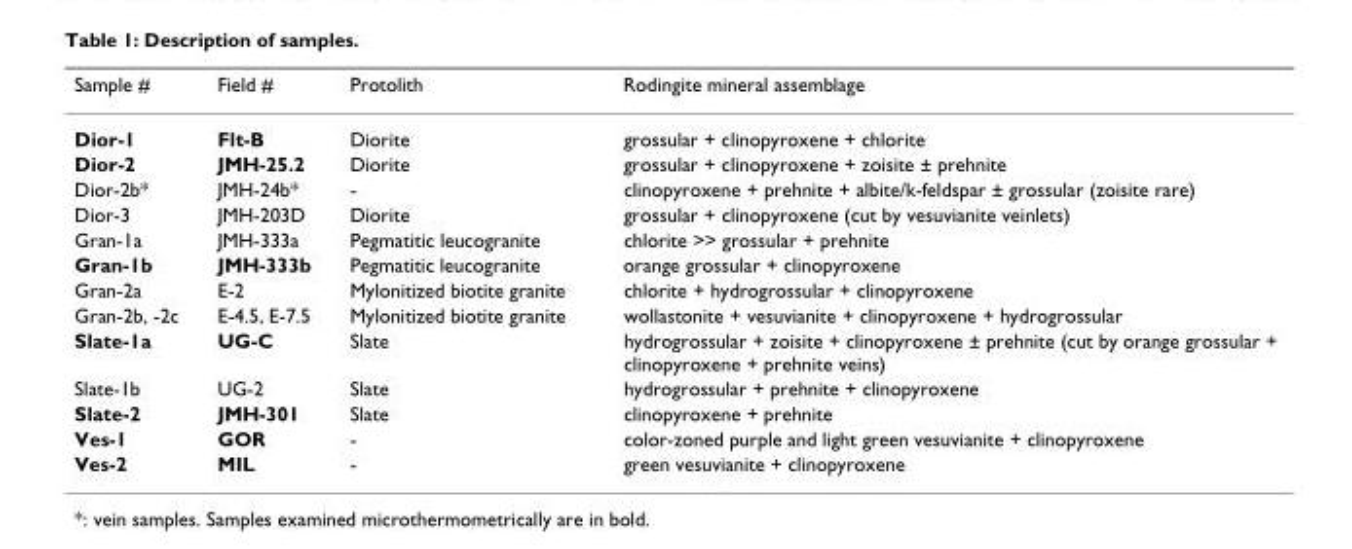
<table><thead><tr><td>Sample #</td><td>Field #</td><td>Protolith</td><td>Rodingite mineral assemblage</td></tr></thead><tbody><tr><td>Dior-1</td><td>Flt-B</td><td>Diorite</td><td>grossular + clinopyroxene + chlorite</td></tr><tr><td>Dior-2</td><td>JMH-25.2</td><td>Diorite</td><td>grossular + clinopyroxene + zoisite ± prehnite</td></tr><tr><td>Dior-2b*</td><td>JMH-24b*</td><td>-</td><td>clinopyroxene + prehnite + albite/k-feldspar ± grossular (zoisite rare)</td></tr><tr><td>Dior-3</td><td>JMH-203D</td><td>Diorite</td><td>grossular + clinopyroxene (cut by vesuvianite veinlets)</td></tr><tr><td>Gran-1a</td><td>JMH-333a</td><td>Pegmatitic leucogranite</td><td>chlorite &gt;&gt; grossular + prehnite</td></tr><tr><td>Gran-1b</td><td>JMH-333b</td><td>Pegmatitic leucogranite</td><td>orange grossular + clinopyroxene</td></tr><tr><td>Gran-2a</td><td>E-2</td><td>Mylonitized biotite granite</td><td>chlorite + hydrogrossular + clinopyroxene</td></tr><tr><td>Gran-2b, -2c</td><td>E-4.5, E-7.5</td><td>Mylonitized biotite granite</td><td>wollastonite + vesuvianite + clinopyroxene + hydrogrossular</td></tr><tr><td>Slate-1a</td><td>UG-C</td><td>Slate</td><td>hydrogrossular + zoisite + clinopyroxene ± prehnite (cut by orange grossular + clinopyroxene + prehnite veins)</td></tr><tr><td>Slate-1b</td><td>UG-2</td><td>Slate</td><td>hydrogrossular + prehnite + clinopyroxene</td></tr><tr><td>Slate-2</td><td>JMH-301</td><td>Slate</td><td>clinopyroxene + prehnite</td></tr><tr><td>Ves-1</td><td>GOR</td><td>-</td><td>color-zoned purple and light green vesuvianite + clinopyroxene</td></tr><tr><td>Ves-2</td><td>MIL</td><td>-</td><td>green vesuvianite + clinopyroxene</td></tr></tbody></table>